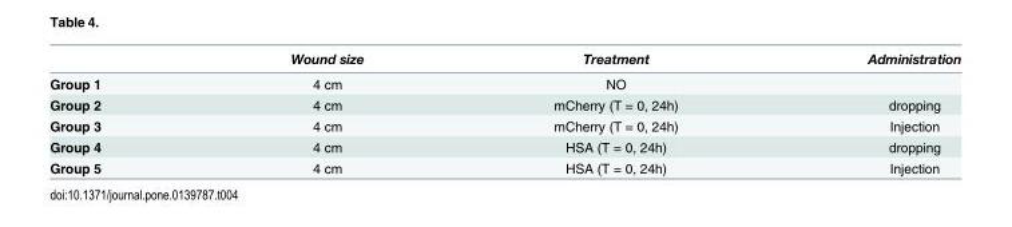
<table><thead><tr><td></td><td>Wound size</td><td>Treatment</td><td>Administration</td></tr></thead><tbody><tr><td>Group 1</td><td>4 cm</td><td>NO</td><td></td></tr><tr><td>Group 2</td><td>4 cm</td><td>mCherry (T = 0, 24h)</td><td>dropping</td></tr><tr><td>Group 3</td><td>4 cm</td><td>mCherry (T = 0, 24h)</td><td>Injection</td></tr><tr><td>Group 4</td><td>4 cm</td><td>HSA (T = 0, 24h)</td><td>dropping</td></tr><tr><td>Group 5</td><td>4 cm</td><td>HSA (T = 0, 24h)</td><td>Injection</td></tr></tbody></table>